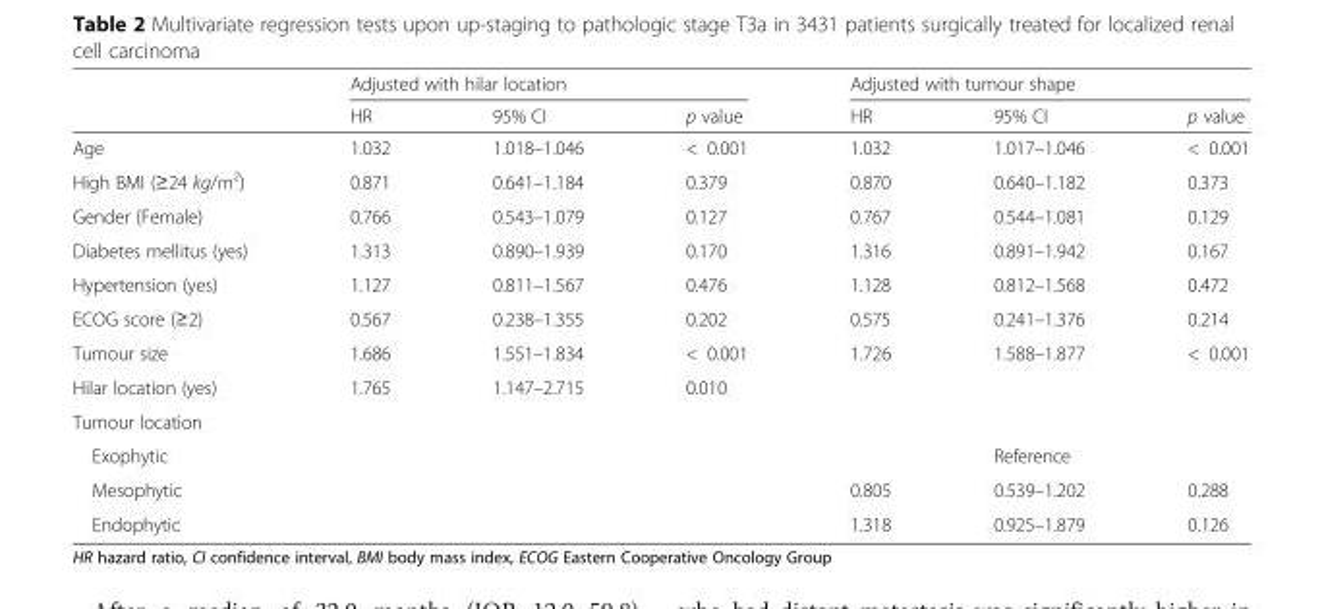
<table><thead><tr><td rowspan="2"></td><td colspan="3">Adjusted with hilar location</td><td colspan="3">Adjusted with tumour shape</td></tr><tr><td>HR</td><td>95% CI</td><td>p value</td><td>HR</td><td>95% CI</td><td>p value</td></tr></thead><tbody><tr><td>Age</td><td>1.032</td><td>1.018–1.046</td><td>&lt; 0.001</td><td>1.032</td><td>1.017–1.046</td><td>&lt; 0.001</td></tr><tr><td>High BMI (≥24 kg/m<sup>2</sup>)</td><td>0.871</td><td>0.641–1.184</td><td>0.379</td><td>0.870</td><td>0.640–1.182</td><td>0.373</td></tr><tr><td>Gender (Female)</td><td>0.766</td><td>0.543–1.079</td><td>0.127</td><td>0.767</td><td>0.544–1.081</td><td>0.129</td></tr><tr><td>Diabetes mellitus (yes)</td><td>1.313</td><td>0.890–1.939</td><td>0.170</td><td>1.316</td><td>0.891–1.942</td><td>0.167</td></tr><tr><td>Hypertension (yes)</td><td>1.127</td><td>0.811–1.567</td><td>0.476</td><td>1.128</td><td>0.812–1.568</td><td>0.472</td></tr><tr><td>ECOG score (≥2)</td><td>0.567</td><td>0.238–1.355</td><td>0.202</td><td>0.575</td><td>0.241–1.376</td><td>0.214</td></tr><tr><td>Tumour size</td><td>1.686</td><td>1.551–1.834</td><td>&lt; 0.001</td><td>1.726</td><td>1.588–1.877</td><td>&lt; 0.001</td></tr><tr><td>Hilar location (yes)</td><td>1.765</td><td>1.147–2.715</td><td>0.010</td><td></td><td></td><td></td></tr><tr><td colspan="7">Tumour location</td></tr><tr><td>Exophytic</td><td></td><td></td><td></td><td></td><td>Reference</td><td></td></tr><tr><td>Mesophytic</td><td></td><td></td><td></td><td>0.805</td><td>0.539–1.202</td><td>0.288</td></tr><tr><td>Endophytic</td><td></td><td></td><td></td><td>1.318</td><td>0.925–1.879</td><td>0.126</td></tr></tbody></table>